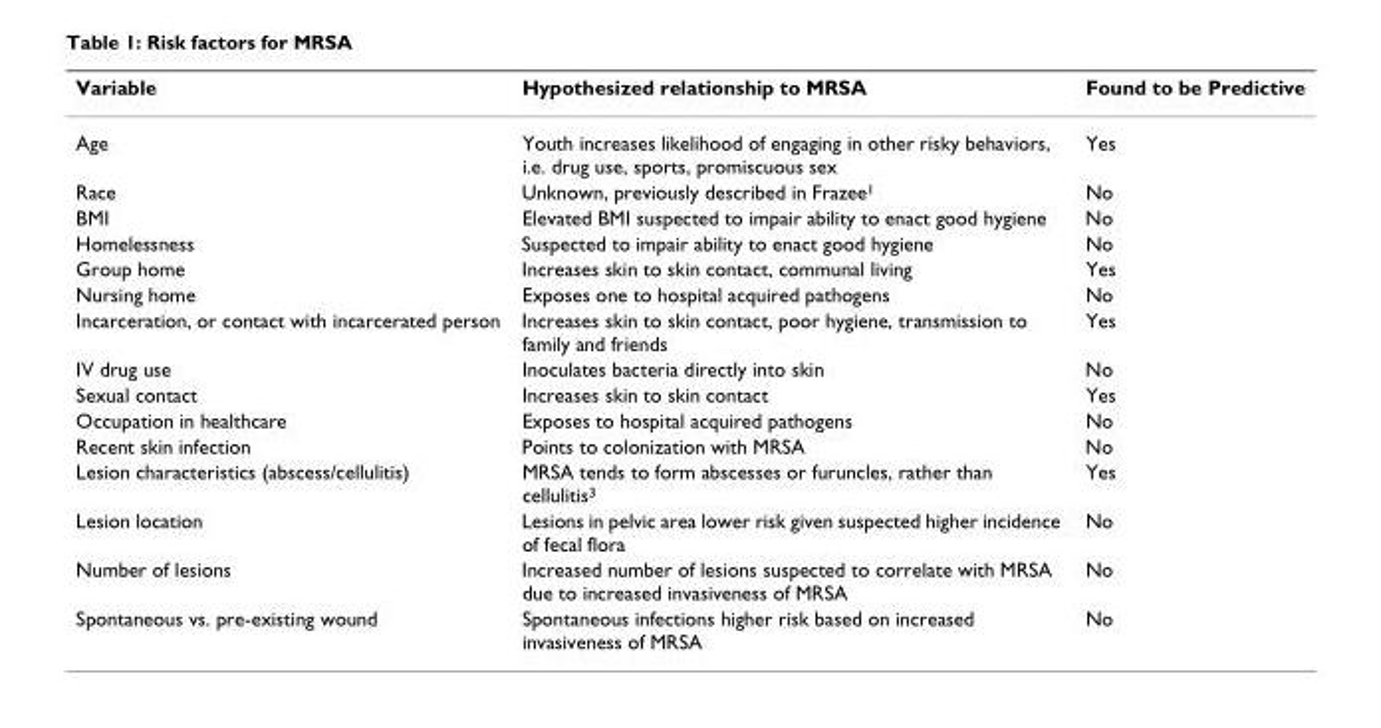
<table><thead><tr><td>Variable</td><td>Hypothesized relationship to MRSA</td><td>Found to be Predictive</td></tr></thead><tbody><tr><td>Age</td><td>Youth increases likelihood of engaging in other risky behaviors, i.e. drug use, sports, promiscuous sex</td><td>Yes</td></tr><tr><td>Race</td><td>Unknown, previously described in Frazee<sup>1</sup></td><td>No</td></tr><tr><td>BMI</td><td>Elevated BMI suspected to impair ability to enact good hygiene</td><td>No</td></tr><tr><td>Homelessness</td><td>Suspected to impair ability to enact good hygiene</td><td>No</td></tr><tr><td>Group home</td><td>Increases skin to skin contact, communal living</td><td>Yes</td></tr><tr><td>Nursing home</td><td>Exposes one to hospital acquired pathogens</td><td>No</td></tr><tr><td>Incarceration, or contact with incarcerated person</td><td>Increases skin to skin contact, poor hygiene, transmission to family and friends</td><td>Yes</td></tr><tr><td>IV drug use</td><td>Inoculates bacteria directly into skin</td><td>No</td></tr><tr><td>Sexual contact</td><td>Increases skin to skin contact</td><td>Yes</td></tr><tr><td>Occupation in healthcare</td><td>Exposes to hospital acquired pathogens</td><td>No</td></tr><tr><td>Recent skin infection</td><td>Points to colonization with MRSA</td><td>No</td></tr><tr><td>Lesion characteristics (abscess/cellulitis)</td><td>MRSA tends to form abscesses or furuncles, rather than cellulitis<sup>3</sup></td><td>Yes</td></tr><tr><td>Lesion location</td><td>Lesions in pelvic area lower risk given suspected higher incidence of fecal flora</td><td>No</td></tr><tr><td>Number of lesions</td><td>Increased number of lesions suspected to correlate with MRSA due to increased invasiveness of MRSA</td><td>No</td></tr><tr><td>Spontaneous vs. pre-existing wound</td><td>Spontaneous infections higher risk based on increased invasiveness of MRSA</td><td>No</td></tr></tbody></table>